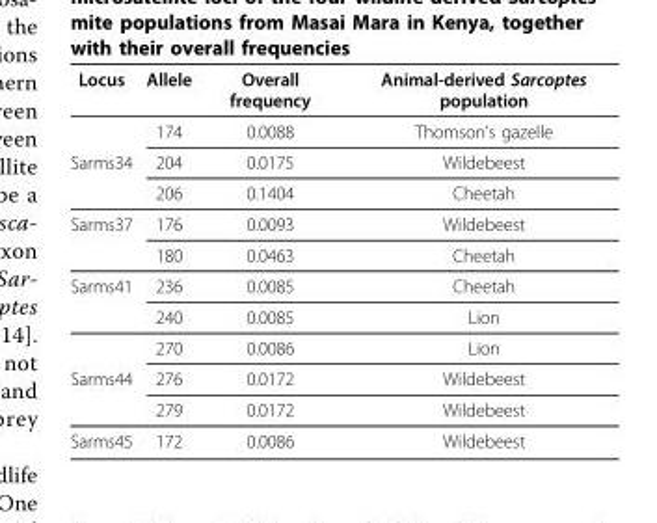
<table><thead><tr><td>Locus</td><td>Allele</td><td>Overall frequency</td><td>Animal-derived Sarcoptes population</td></tr></thead><tbody><tr><td></td><td>174</td><td>0.0088</td><td>Thomson’s gazelle</td></tr><tr><td rowspan="2">Sarms34</td><td>204</td><td>0.0175</td><td>Wildebeest</td></tr><tr><td>206</td><td>0.1404</td><td>Cheetah</td></tr><tr><td rowspan="2">Sarms37</td><td>176</td><td>0.0093</td><td>Wildebeest</td></tr><tr><td>180</td><td>0.0463</td><td>Cheetah</td></tr><tr><td rowspan="3">Sarms41</td><td>236</td><td>0.0085</td><td>Cheetah</td></tr><tr><td>240</td><td>0.0085</td><td>Lion</td></tr><tr><td>270</td><td>0.0086</td><td>Lion</td></tr><tr><td rowspan="2">Sarms44</td><td>276</td><td>0.0172</td><td>Wildebeest</td></tr><tr><td>279</td><td>0.0172</td><td>Wildebeest</td></tr><tr><td>Sarms45</td><td>172</td><td>0.0086</td><td>Wildebeest</td></tr></tbody></table>